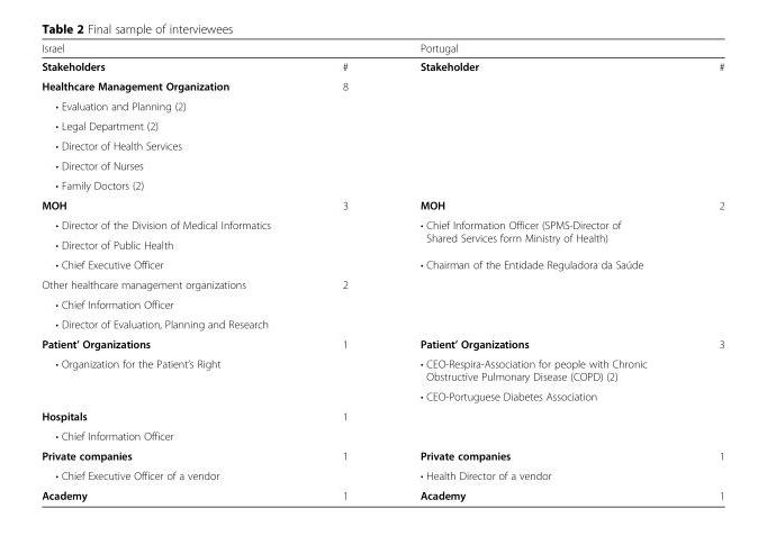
<table><thead><tr><td colspan="2">Israel</td><td colspan="2">Portugal</td></tr><tr><td>Stakeholders</td><td>#</td><td>Stakeholder</td><td>#</td></tr></thead><tbody><tr><td>Healthcare Management Organization</td><td rowspan="6">8</td><td rowspan="6"></td><td rowspan="6"></td></tr><tr><td>• Evaluation and Planning (2)</td></tr><tr><td>• Legal Department (2)</td></tr><tr><td>• Director of Health Services</td></tr><tr><td>• Director of Nurses</td></tr><tr><td>• Family Doctors (2)</td></tr><tr><td>MOH</td><td rowspan="4">3</td><td>MOH</td><td rowspan="4">2</td></tr><tr><td>• Director of the Division of Medical Informatics</td><td rowspan="2">• Chief Information Officer (SPMS-Director of Shared Services form Ministry of Health)</td></tr><tr><td>• Director of Public Health</td></tr><tr><td>• Chief Executive Officer</td><td>• Chairman of the Entidade Reguladora da Saúde</td></tr><tr><td>Other healthcare management organizations</td><td rowspan="3">2</td><td rowspan="3"></td><td rowspan="3"></td></tr><tr><td>• Chief Information Officer</td></tr><tr><td>• Director of Evaluation, Planning and Research</td></tr><tr><td>Patient’ Organizations</td><td rowspan="3">1</td><td>Patient’ Organizations</td><td rowspan="3">3</td></tr><tr><td rowspan="2">• Organization for the Patient’s Right</td><td>• CEO-Respira-Association for people with Chronic Obstructive Pulmonary Disease (COPD) (2)</td></tr><tr><td>• CEO-Portuguese Diabetes Association</td></tr><tr><td>Hospitals</td><td rowspan="2">1</td><td rowspan="2"></td><td rowspan="2"></td></tr><tr><td>• Chief Information Officer</td></tr><tr><td>Private companies</td><td rowspan="2">1</td><td>Private companies</td><td rowspan="2">1</td></tr><tr><td>• Chief Executive Officer of a vendor</td><td>• Health Director of a vendor</td></tr><tr><td>Academy</td><td>1</td><td>Academy</td><td>1</td></tr></tbody></table>